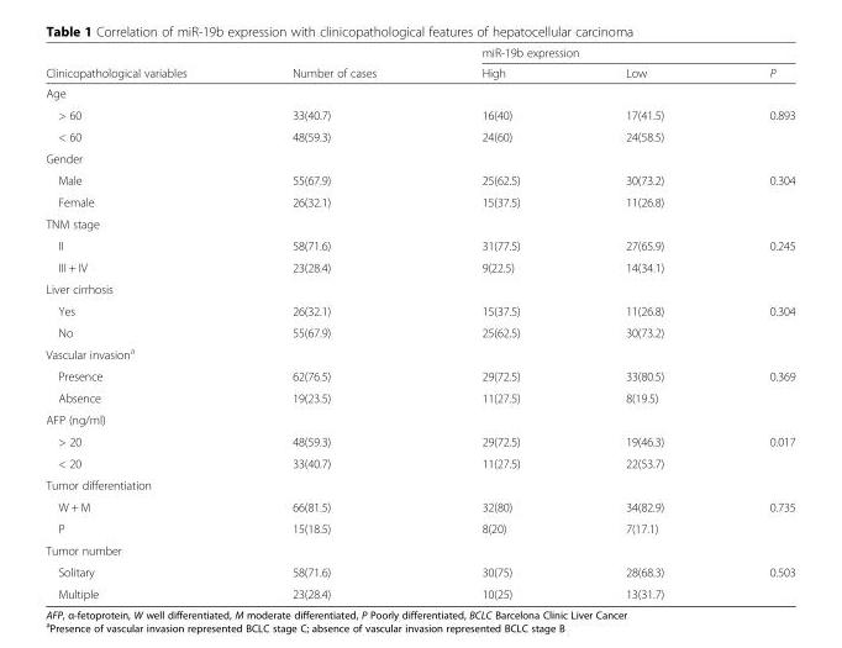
<table><thead><tr><td rowspan="2">Clinicopathological variables</td><td rowspan="2">Number of cases</td><td colspan="3">miR-19b expression</td></tr><tr><td>High</td><td>Low</td><td>P</td></tr></thead><tbody><tr><td colspan="5">Age</td></tr><tr><td>&gt; 60</td><td>33(40.7)</td><td>16(40)</td><td>17(41.5)</td><td>0.893</td></tr><tr><td>&lt; 60</td><td>48(59.3)</td><td>24(60)</td><td>24(58.5)</td><td></td></tr><tr><td colspan="5">Gender</td></tr><tr><td>Male</td><td>55(67.9)</td><td>25(62.5)</td><td>30(73.2)</td><td>0.304</td></tr><tr><td>Female</td><td>26(32.1)</td><td>15(37.5)</td><td>11(26.8)</td><td></td></tr><tr><td colspan="5">TNM stage</td></tr><tr><td>II</td><td>58(71.6)</td><td>31(77.5)</td><td>27(65.9)</td><td>0.245</td></tr><tr><td>III + IV</td><td>23(28.4)</td><td>9(22.5)</td><td>14(34.1)</td><td></td></tr><tr><td colspan="5">Liver cirrhosis</td></tr><tr><td>Yes</td><td>26(32.1)</td><td>15(37.5)</td><td>11(26.8)</td><td>0.304</td></tr><tr><td>No</td><td>55(67.9)</td><td>25(62.5)</td><td>30(73.2)</td><td></td></tr><tr><td colspan="5">Vascular invasion<sup>a</sup></td></tr><tr><td>Presence</td><td>62(76.5)</td><td>29(72.5)</td><td>33(80.5)</td><td>0.369</td></tr><tr><td>Absence</td><td>19(23.5)</td><td>11(27.5)</td><td>8(19.5)</td><td></td></tr><tr><td colspan="5">AFP (ng/ml)</td></tr><tr><td>&gt; 20</td><td>48(59.3)</td><td>29(72.5)</td><td>19(46.3)</td><td>0.017</td></tr><tr><td>&lt; 20</td><td>33(40.7)</td><td>11(27.5)</td><td>22(53.7)</td><td></td></tr><tr><td colspan="5">Tumor differentiation</td></tr><tr><td>W + M</td><td>66(81.5)</td><td>32(80)</td><td>34(82.9)</td><td>0.735</td></tr><tr><td>P</td><td>15(18.5)</td><td>8(20)</td><td>7(17.1)</td><td></td></tr><tr><td colspan="5">Tumor number</td></tr><tr><td>Solitary</td><td>58(71.6)</td><td>30(75)</td><td>28(68.3)</td><td>0.503</td></tr><tr><td>Multiple</td><td>23(28.4)</td><td>10(25)</td><td>13(31.7)</td><td></td></tr></tbody></table>